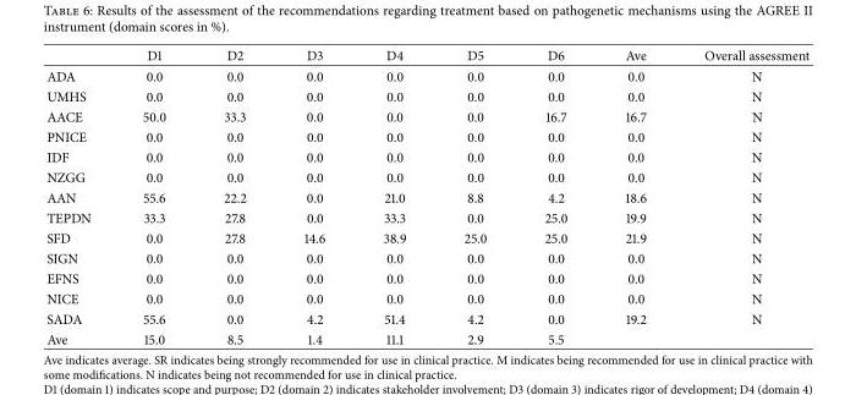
<table><thead><tr><td></td><td>D1</td><td>D2</td><td>D3</td><td>D4</td><td>D5</td><td>D6</td><td>Ave</td><td>Overall assessment</td></tr></thead><tbody><tr><td>ADA</td><td>0.0</td><td>0.0</td><td>0.0</td><td>0.0</td><td>0.0</td><td>0.0</td><td>0.0</td><td>N</td></tr><tr><td>UMHS</td><td>0.0</td><td>0.0</td><td>0.0</td><td>0.0</td><td>0.0</td><td>0.0</td><td>0.0</td><td>N</td></tr><tr><td>AACE</td><td>50.0</td><td>33.3</td><td>0.0</td><td>0.0</td><td>0.0</td><td>16.7</td><td>16.7</td><td>N</td></tr><tr><td>PNICE</td><td>0.0</td><td>0.0</td><td>0.0</td><td>0.0</td><td>0.0</td><td>0.0</td><td>0.0</td><td>N</td></tr><tr><td>IDF</td><td>0.0</td><td>0.0</td><td>0.0</td><td>0.0</td><td>0.0</td><td>0.0</td><td>0.0</td><td>N</td></tr><tr><td>NZGG</td><td>0.0</td><td>0.0</td><td>0.0</td><td>0.0</td><td>0.0</td><td>0.0</td><td>0.0</td><td>N</td></tr><tr><td>AAN</td><td>55.6</td><td>22.2</td><td>0.0</td><td>21.0</td><td>8.8</td><td>4.2</td><td>18.6</td><td>N</td></tr><tr><td>TEPDN</td><td>33.3</td><td>27.8</td><td>0.0</td><td>33.3</td><td>0.0</td><td>25.0</td><td>19.9</td><td>N</td></tr><tr><td>SFD</td><td>0.0</td><td>27.8</td><td>14.6</td><td>38.9</td><td>25.0</td><td>25.0</td><td>21.9</td><td>N</td></tr><tr><td>SIGN</td><td>0.0</td><td>0.0</td><td>0.0</td><td>0.0</td><td>0.0</td><td>0.0</td><td>0.0</td><td>N</td></tr><tr><td>EFNS</td><td>0.0</td><td>0.0</td><td>0.0</td><td>0.0</td><td>0.0</td><td>0.0</td><td>0.0</td><td>N</td></tr><tr><td>NICE</td><td>0.0</td><td>0.0</td><td>0.0</td><td>0.0</td><td>0.0</td><td>0.0</td><td>0.0</td><td>N</td></tr><tr><td>SADA</td><td>55.6</td><td>0.0</td><td>4.2</td><td>51.4</td><td>4.2</td><td>0.0</td><td>19.2</td><td>N</td></tr><tr><td>Ave</td><td>15.0</td><td>8.5</td><td>1.4</td><td>11.1</td><td>2.9</td><td>5.5</td><td></td><td></td></tr></tbody></table>